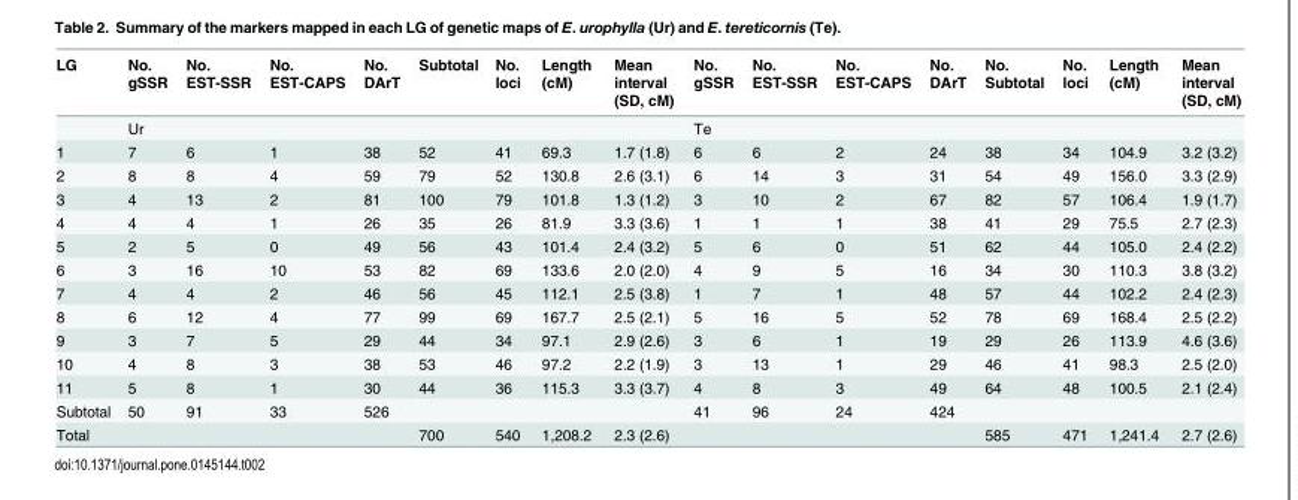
<table><thead><tr><td>LG</td><td>No. gSSR</td><td>No. EST-SSR</td><td>No. EST-CAPS</td><td>No. DArT</td><td>Subtotal</td><td>No. loci</td><td>Length (cM)</td><td>Mean interval (SD, cM)</td><td>No. gSSR</td><td>No. EST-SSR</td><td>No. EST-CAPS</td><td>No. DArT</td><td>No. Subtotal</td><td>No. loci</td><td>Length (cM)</td><td>Mean interval (SD, cM)</td></tr></thead><tbody><tr><td></td><td>Ur</td><td></td><td></td><td></td><td></td><td></td><td></td><td></td><td>Te</td><td></td><td></td><td></td><td></td><td></td><td></td><td></td></tr><tr><td>1</td><td>7</td><td>6</td><td>1</td><td>38</td><td>52</td><td>41</td><td>69.3</td><td>1.7 (1.8)</td><td>6</td><td>6</td><td>2</td><td>24</td><td>38</td><td>34</td><td>104.9</td><td>3.2 (3.2)</td></tr><tr><td>2</td><td>8</td><td>8</td><td>4</td><td>59</td><td>79</td><td>52</td><td>130.8</td><td>2.6 (3.1)</td><td>6</td><td>14</td><td>3</td><td>31</td><td>54</td><td>49</td><td>156.0</td><td>3.3 (2.9)</td></tr><tr><td>3</td><td>4</td><td>13</td><td>2</td><td>81</td><td>100</td><td>79</td><td>101.8</td><td>1.3 (1.2)</td><td>3</td><td>10</td><td>2</td><td>67</td><td>82</td><td>57</td><td>106.4</td><td>1.9 (1.7)</td></tr><tr><td>4</td><td>4</td><td>4</td><td>1</td><td>26</td><td>35</td><td>26</td><td>81.9</td><td>3.3 (3.6)</td><td>1</td><td>1</td><td>1</td><td>38</td><td>41</td><td>29</td><td>75.5</td><td>2.7 (2.3)</td></tr><tr><td>5</td><td>2</td><td>5</td><td>0</td><td>49</td><td>56</td><td>43</td><td>101.4</td><td>2.4 (3.2)</td><td>5</td><td>6</td><td>0</td><td>51</td><td>62</td><td>44</td><td>105.0</td><td>2.4 (2.2)</td></tr><tr><td>6</td><td>3</td><td>16</td><td>10</td><td>53</td><td>82</td><td>69</td><td>133.6</td><td>2.0 (2.0)</td><td>4</td><td>9</td><td>5</td><td>16</td><td>34</td><td>30</td><td>110.3</td><td>3.8 (3.2)</td></tr><tr><td>7</td><td>4</td><td>4</td><td>2</td><td>46</td><td>56</td><td>45</td><td>112.1</td><td>2.5 (3.8)</td><td>1</td><td>7</td><td>1</td><td>48</td><td>57</td><td>44</td><td>102.2</td><td>2.4 (2.3)</td></tr><tr><td>8</td><td>6</td><td>12</td><td>4</td><td>77</td><td>99</td><td>69</td><td>167.7</td><td>2.5 (2.1)</td><td>5</td><td>16</td><td>5</td><td>52</td><td>78</td><td>69</td><td>168.4</td><td>2.5 (2.2)</td></tr><tr><td>9</td><td>3</td><td>7</td><td>5</td><td>29</td><td>44</td><td>34</td><td>97.1</td><td>2.9 (2.6)</td><td>3</td><td>6</td><td>1</td><td>19</td><td>29</td><td>26</td><td>113.9</td><td>4.6 (3.6)</td></tr><tr><td>10</td><td>4</td><td>8</td><td>3</td><td>38</td><td>53</td><td>46</td><td>97.2</td><td>2.2 (1.9)</td><td>3</td><td>13</td><td>1</td><td>29</td><td>46</td><td>41</td><td>98.3</td><td>2.5 (2.0)</td></tr><tr><td>11</td><td>5</td><td>8</td><td>1</td><td>30</td><td>44</td><td>36</td><td>115.3</td><td>3.3 (3.7)</td><td>4</td><td>8</td><td>3</td><td>49</td><td>64</td><td>48</td><td>100.5</td><td>2.1 (2.4)</td></tr><tr><td>Subtotal</td><td>50</td><td>91</td><td>33</td><td>526</td><td></td><td></td><td></td><td></td><td>41</td><td>96</td><td>24</td><td>424</td><td></td><td></td><td></td><td></td></tr><tr><td>Total</td><td></td><td></td><td></td><td></td><td>700</td><td>540</td><td>1,208.2</td><td>2.3 (2.6)</td><td></td><td></td><td></td><td></td><td>585</td><td>471</td><td>1,241.4</td><td>2.7 (2.6)</td></tr></tbody></table>